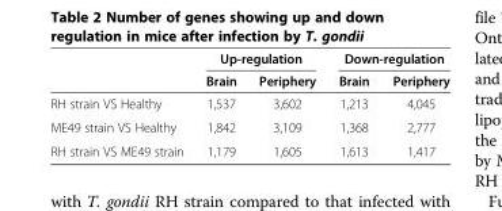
<table><thead><tr><td rowspan="2"></td><td colspan="2">Up-regulation</td><td colspan="2">Down-regulation</td></tr><tr><td>Brain</td><td>Periphery</td><td>Brain</td><td>Periphery</td></tr></thead><tbody><tr><td>RH strain VS Healthy</td><td>1,537</td><td>3,602</td><td>1,213</td><td>4,045</td></tr><tr><td>ME49 strain VS Healthy</td><td>1,842</td><td>3,109</td><td>1,368</td><td>2,777</td></tr><tr><td>RH strain VS ME49 strain</td><td>1,179</td><td>1,605</td><td>1,613</td><td>1,417</td></tr></tbody></table>